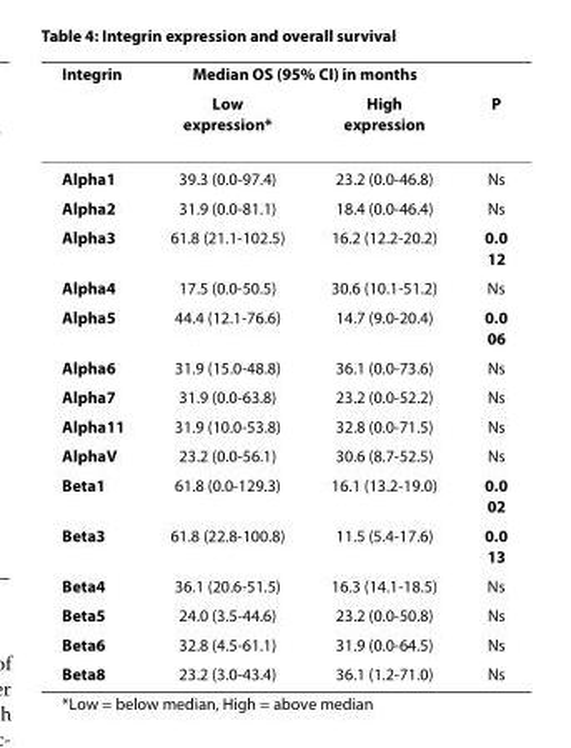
<table><thead><tr><td rowspan="2">Integrin</td><td colspan="2">Median OS (95% CI) in months</td><td rowspan="2">P</td></tr><tr><td>Low expression*</td><td>High expression</td></tr></thead><tbody><tr><td>Alpha1</td><td>39.3 (0.0-97.4)</td><td>23.2 (0.0-46.8)</td><td>Ns</td></tr><tr><td>Alpha2</td><td>31.9 (0.0-81.1)</td><td>18.4 (0.0-46.4)</td><td>Ns</td></tr><tr><td>Alpha3</td><td>61.8 (21.1-102.5)</td><td>16.2 (12.2-20.2)</td><td>0.0 12</td></tr><tr><td>Alpha4</td><td>17.5 (0.0-50.5)</td><td>30.6 (10.1-51.2)</td><td>Ns</td></tr><tr><td>Alpha5</td><td>44.4 (12.1-76.6)</td><td>14.7 (9.0-20.4)</td><td>0.0 06</td></tr><tr><td>Alpha6</td><td>31.9 (15.0-48.8)</td><td>36.1 (0.0-73.6)</td><td>Ns</td></tr><tr><td>Alpha7</td><td>31.9 (0.0-63.8)</td><td>23.2 (0.0-52.2)</td><td>Ns</td></tr><tr><td>Alpha11</td><td>31.9 (10.0-53.8)</td><td>32.8 (0.0-71.5)</td><td>Ns</td></tr><tr><td>AlphaV</td><td>23.2 (0.0-56.1)</td><td>30.6 (8.7-52.5)</td><td>Ns</td></tr><tr><td>Beta1</td><td>61.8 (0.0-129.3)</td><td>16.1 (13.2-19.0)</td><td>0.0 02</td></tr><tr><td>Beta3</td><td>61.8 (22.8-100.8)</td><td>11.5 (5.4-17.6)</td><td>0.0 13</td></tr><tr><td>Beta4</td><td>36.1 (20.6-51.5)</td><td>16.3 (14.1-18.5)</td><td>Ns</td></tr><tr><td>Beta5</td><td>24.0 (3.5-44.6)</td><td>23.2 (0.0-50.8)</td><td>Ns</td></tr><tr><td>Beta6</td><td>32.8 (4.5-61.1)</td><td>31.9 (0.0-64.5)</td><td>Ns</td></tr><tr><td>Beta8</td><td>23.2 (3.0-43.4)</td><td>36.1 (1.2-71.0)</td><td>Ns</td></tr></tbody></table>